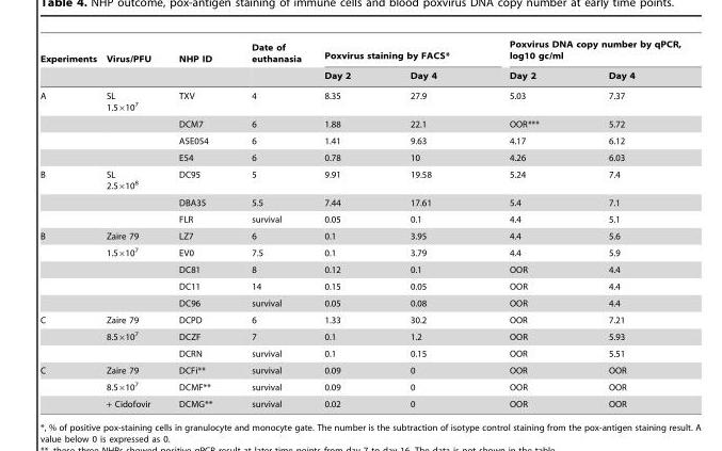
<table><thead><tr><td rowspan="2">Experiments</td><td rowspan="2">Virus/PFU</td><td rowspan="2">NHP ID</td><td rowspan="2">Date of euthanasia</td><td colspan="2">Poxvirus staining by FACS*</td><td colspan="2">Poxvirus DNA copy number by qPCR, log10 gc/ml</td></tr><tr><td>Day 2</td><td>Day 4</td><td>Day 2</td><td>Day 4</td></tr></thead><tbody><tr><td rowspan="4">A</td><td>SL 1.5×10<sup>7</sup></td><td>TXV</td><td>4</td><td>8.35</td><td>27.9</td><td>5.03</td><td>7.37</td></tr><tr><td></td><td>DCM7</td><td>6</td><td>1.88</td><td>22.1</td><td>OOR***</td><td>5.72</td></tr><tr><td></td><td>A5E054</td><td>6</td><td>1.41</td><td>9.63</td><td>4.17</td><td>6.12</td></tr><tr><td></td><td>E54</td><td>6</td><td>0.78</td><td>10</td><td>4.26</td><td>6.03</td></tr><tr><td rowspan="3">B</td><td>SL 2.5×10<sup>8</sup></td><td>DC95</td><td>5</td><td>9.91</td><td>19.58</td><td>5.24</td><td>7.4</td></tr><tr><td></td><td>DBA35</td><td>5.5</td><td>7.44</td><td>17.61</td><td>5.4</td><td>7.1</td></tr><tr><td></td><td>FLR</td><td>survival</td><td>0.05</td><td>0.1</td><td>4.4</td><td>5.1</td></tr><tr><td rowspan="5">B</td><td>Zaire 79</td><td>LZ7</td><td>6</td><td>0.1</td><td>3.95</td><td>4.4</td><td>5.6</td></tr><tr><td>1.5×10<sup>7</sup></td><td>EV0</td><td>7.5</td><td>0.1</td><td>3.79</td><td>4.4</td><td>5.9</td></tr><tr><td></td><td>DC81</td><td>8</td><td>0.12</td><td>0.1</td><td>OOR</td><td>4.4</td></tr><tr><td></td><td>DC11</td><td>14</td><td>0.15</td><td>0.05</td><td>OOR</td><td>4.4</td></tr><tr><td></td><td>DC96</td><td>survival</td><td>0.05</td><td>0.08</td><td>OOR</td><td>4.4</td></tr><tr><td rowspan="3">C</td><td>Zaire 79</td><td>DCPD</td><td>6</td><td>1.33</td><td>30.2</td><td>OOR</td><td>7.21</td></tr><tr><td>8.5×10<sup>7</sup></td><td>DCZF</td><td>7</td><td>0.1</td><td>1.2</td><td>OOR</td><td>5.93</td></tr><tr><td></td><td>DCRN</td><td>survival</td><td>0.1</td><td>0.15</td><td>OOR</td><td>5.51</td></tr><tr><td rowspan="3">C</td><td>Zaire 79</td><td>DCFi**</td><td>survival</td><td>0.09</td><td>0</td><td>OOR</td><td>OOR</td></tr><tr><td>8.5×10<sup>7</sup></td><td>DCMF**</td><td>survival</td><td>0.09</td><td>0</td><td>OOR</td><td>OOR</td></tr><tr><td>+ Cidofovir</td><td>DCMG**</td><td>survival</td><td>0.02</td><td>0</td><td>OOR</td><td>OOR</td></tr></tbody></table>